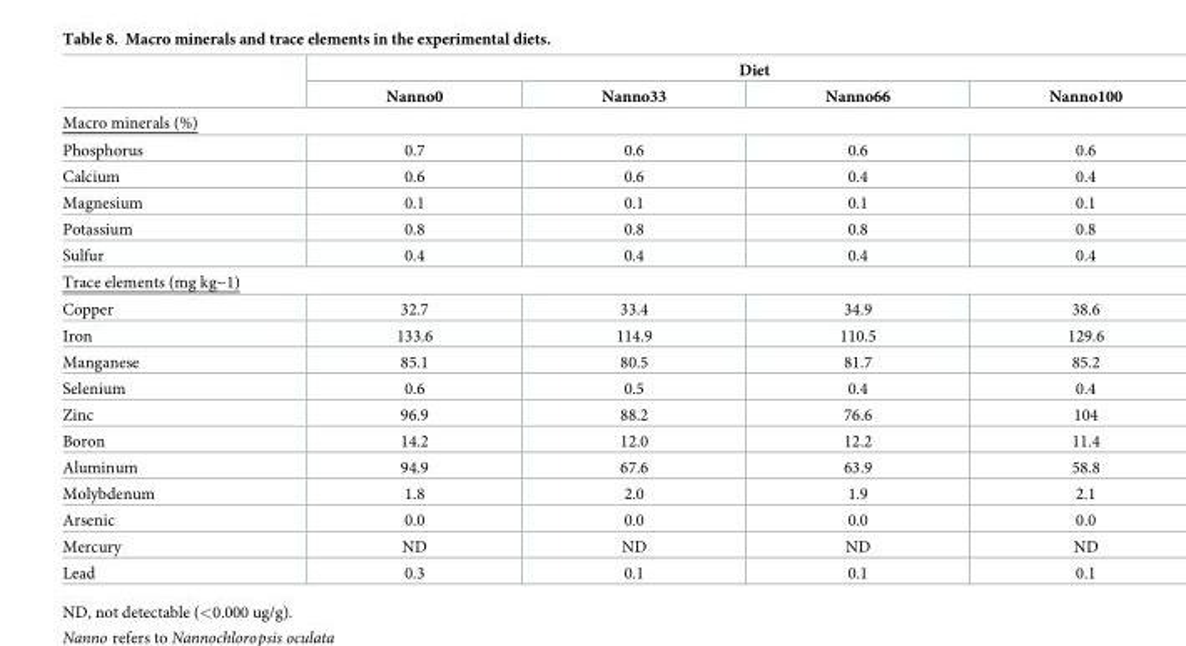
<table><thead><tr><td rowspan="2"></td><td colspan="4">Diet</td></tr><tr><td>Nanno0</td><td>Nanno33</td><td>Nanno66</td><td>Nanno100</td></tr></thead><tbody><tr><td colspan="5">Macro minerals (%)</td></tr><tr><td>Phosphorus</td><td>0.7</td><td>0.6</td><td>0.6</td><td>0.6</td></tr><tr><td>Calcium</td><td>0.6</td><td>0.6</td><td>0.4</td><td>0.4</td></tr><tr><td>Magnesium</td><td>0.1</td><td>0.1</td><td>0.1</td><td>0.1</td></tr><tr><td>Potassium</td><td>0.8</td><td>0.8</td><td>0.8</td><td>0.8</td></tr><tr><td>Sulfur</td><td>0.4</td><td>0.4</td><td>0.4</td><td>0.4</td></tr><tr><td colspan="5">Trace elements (mg kg−1)</td></tr><tr><td>Copper</td><td>32.7</td><td>33.4</td><td>34.9</td><td>38.6</td></tr><tr><td>Iron</td><td>133.6</td><td>114.9</td><td>110.5</td><td>129.6</td></tr><tr><td>Manganese</td><td>85.1</td><td>80.5</td><td>81.7</td><td>85.2</td></tr><tr><td>Selenium</td><td>0.6</td><td>0.5</td><td>0.4</td><td>0.4</td></tr><tr><td>Zinc</td><td>96.9</td><td>88.2</td><td>76.6</td><td>104</td></tr><tr><td>Boron</td><td>14.2</td><td>12.0</td><td>12.2</td><td>11.4</td></tr><tr><td>Aluminum</td><td>94.9</td><td>67.6</td><td>63.9</td><td>58.8</td></tr><tr><td>Molybdenum</td><td>1.8</td><td>2.0</td><td>1.9</td><td>2.1</td></tr><tr><td>Arsenic</td><td>0.0</td><td>0.0</td><td>0.0</td><td>0.0</td></tr><tr><td>Mercury</td><td>ND</td><td>ND</td><td>ND</td><td>ND</td></tr><tr><td>Lead</td><td>0.3</td><td>0.1</td><td>0.1</td><td>0.1</td></tr></tbody></table>